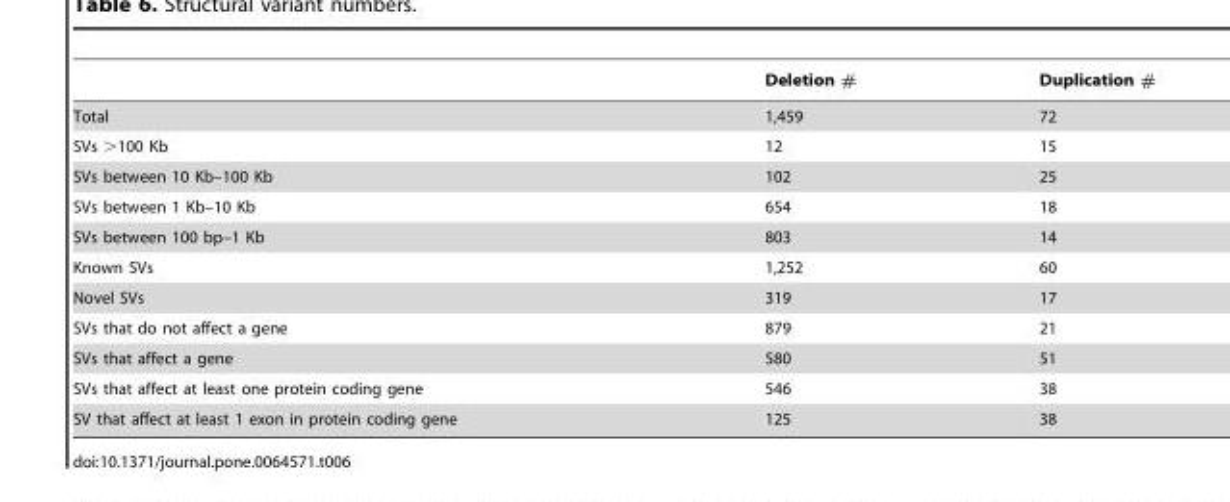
<table><thead><tr><td></td><td>Deletion #</td><td>Duplication #</td></tr></thead><tbody><tr><td>Total</td><td>1,459</td><td>72</td></tr><tr><td>SVs &gt;100 Kb</td><td>12</td><td>15</td></tr><tr><td>SVs between 10 Kb–100 Kb</td><td>102</td><td>25</td></tr><tr><td>SVs between 1 Kb–10 Kb</td><td>654</td><td>18</td></tr><tr><td>SVs between 100 bp–1 Kb</td><td>803</td><td>14</td></tr><tr><td>Known SVs</td><td>1,252</td><td>60</td></tr><tr><td>Novel SVs</td><td>319</td><td>17</td></tr><tr><td>SVs that do not affect a gene</td><td>879</td><td>21</td></tr><tr><td>SVs that affect a gene</td><td>580</td><td>51</td></tr><tr><td>SVs that affect at least one protein coding gene</td><td>546</td><td>38</td></tr><tr><td>SV that affect at least 1 exon in protein coding gene</td><td>125</td><td>38</td></tr></tbody></table>